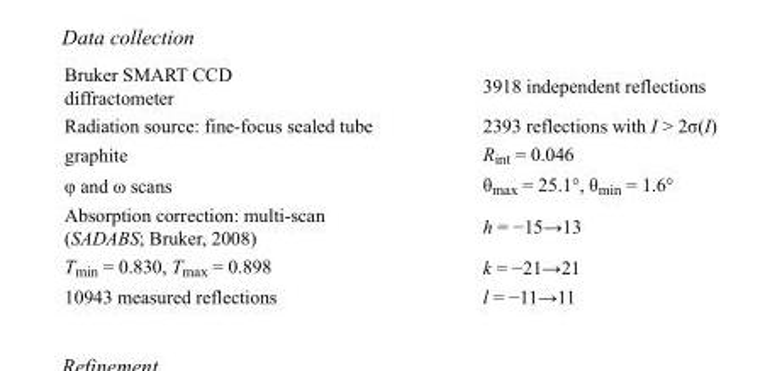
<table><tbody><tr><td>Bruker SMART CCD diffractometer</td><td>3918 independent reflections</td></tr><tr><td>Radiation source: fine-focus sealed tube</td><td>2393 reflections with I &gt; 2σ(I)</td></tr><tr><td>graphite</td><td>R<sub>int</sub> = 0.046</td></tr><tr><td>φ and ω scans</td><td>θ<sub>max</sub> = 25.1°, θ<sub>min</sub> = 1.6°</td></tr><tr><td>Absorption correction: multi-scan (SADABS; Bruker, 2008)</td><td>h = −15→13</td></tr><tr><td>T<sub>min</sub> = 0.830, T<sub>max</sub> = 0.898</td><td>k = −21→21</td></tr><tr><td>10943 measured reflections</td><td>l = −11→11</td></tr></tbody></table>